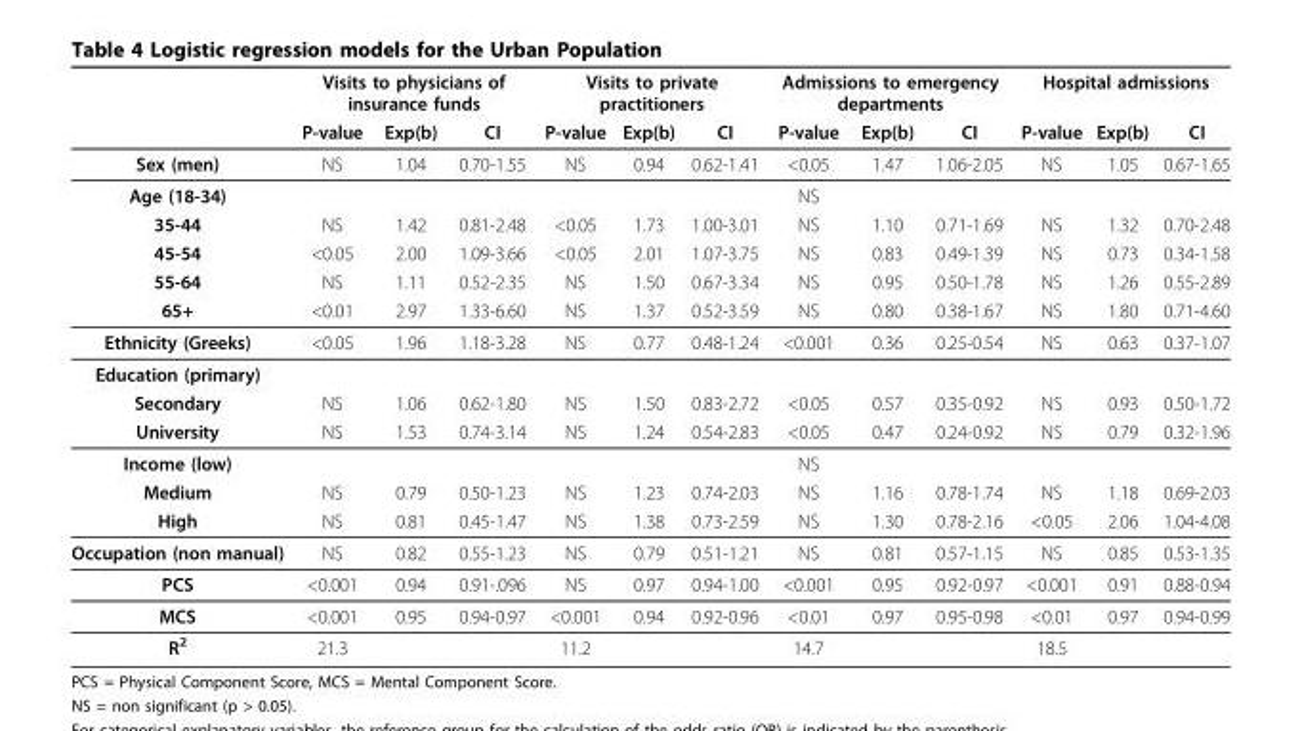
<table><thead><tr><td rowspan="2"></td><td colspan="3">Visits to physicians of insurance funds</td><td colspan="3">Visits to private practitioners</td><td colspan="3">Admissions to emergency departments</td><td colspan="3">Hospital admissions</td></tr><tr><td>P-value</td><td>Exp(b)</td><td>CI</td><td>P-value</td><td>Exp(b)</td><td>CI</td><td>P-value</td><td>Exp(b)</td><td>CI</td><td>P-value</td><td>Exp(b)</td><td>CI</td></tr></thead><tbody><tr><td>Sex (men)</td><td>NS</td><td>1.04</td><td>0.70-1.55</td><td>NS</td><td>0.94</td><td>0.62-1.41</td><td>&lt;0.05</td><td>1.47</td><td>1.06-2.05</td><td>NS</td><td>1.05</td><td>0.67-1.65</td></tr><tr><td>Age (18-34)</td><td></td><td></td><td></td><td></td><td></td><td></td><td>NS</td><td></td><td></td><td></td><td></td><td></td></tr><tr><td>35-44</td><td>NS</td><td>1.42</td><td>0.81-2.48</td><td>&lt;0.05</td><td>1.73</td><td>1.00-3.01</td><td>NS</td><td>1.10</td><td>0.71-1.69</td><td>NS</td><td>1.32</td><td>0.70-2.48</td></tr><tr><td>45-54</td><td>&lt;0.05</td><td>2.00</td><td>1.09-3.66</td><td>&lt;0.05</td><td>2.01</td><td>1.07-3.75</td><td>NS</td><td>0.83</td><td>0.49-1.39</td><td>NS</td><td>0.73</td><td>0.34-1.58</td></tr><tr><td>55-64</td><td>NS</td><td>1.11</td><td>0.52-2.35</td><td>NS</td><td>1.50</td><td>0.67-3.34</td><td>NS</td><td>0.95</td><td>0.50-1.78</td><td>NS</td><td>1.26</td><td>0.55-2.89</td></tr><tr><td>65+</td><td>&lt;0.01</td><td>2.97</td><td>1.33-6.60</td><td>NS</td><td>1.37</td><td>0.52-3.59</td><td>NS</td><td>0.80</td><td>0.38-1.67</td><td>NS</td><td>1.80</td><td>0.71-4.60</td></tr><tr><td>Ethnicity (Greeks)</td><td>&lt;0.05</td><td>1.96</td><td>1.18-3.28</td><td>NS</td><td>0.77</td><td>0.48-1.24</td><td>&lt;0.001</td><td>0.36</td><td>0.25-0.54</td><td>NS</td><td>0.63</td><td>0.37-1.07</td></tr><tr><td colspan="13">Education (primary)</td></tr><tr><td>Secondary</td><td>NS</td><td>1.06</td><td>0.62-1.80</td><td>NS</td><td>1.50</td><td>0.83-2.72</td><td>&lt;0.05</td><td>0.57</td><td>0.35-0.92</td><td>NS</td><td>0.93</td><td>0.50-1.72</td></tr><tr><td>University</td><td>NS</td><td>1.53</td><td>0.74-3.14</td><td>NS</td><td>1.24</td><td>0.54-2.83</td><td>&lt;0.05</td><td>0.47</td><td>0.24-0.92</td><td>NS</td><td>0.79</td><td>0.32-1.96</td></tr><tr><td>Income (low)</td><td></td><td></td><td></td><td></td><td></td><td></td><td>NS</td><td></td><td></td><td></td><td></td><td></td></tr><tr><td>Medium</td><td>NS</td><td>0.79</td><td>0.50-1.23</td><td>NS</td><td>1.23</td><td>0.74-2.03</td><td>NS</td><td>1.16</td><td>0.78-1.74</td><td>NS</td><td>1.18</td><td>0.69-2.03</td></tr><tr><td>High</td><td>NS</td><td>0.81</td><td>0.45-1.47</td><td>NS</td><td>1.38</td><td>0.73-2.59</td><td>NS</td><td>1.30</td><td>0.78-2.16</td><td>&lt;0.05</td><td>2.06</td><td>1.04-4.08</td></tr><tr><td>Occupation (non manual)</td><td>NS</td><td>0.82</td><td>0.55-1.23</td><td>NS</td><td>0.79</td><td>0.51-1.21</td><td>NS</td><td>0.81</td><td>0.57-1.15</td><td>NS</td><td>0.85</td><td>0.53-1.35</td></tr><tr><td>PCS</td><td>&lt;0.001</td><td>0.94</td><td>0.91-.096</td><td>NS</td><td>0.97</td><td>0.94-1.00</td><td>&lt;0.001</td><td>0.95</td><td>0.92-0.97</td><td>&lt;0.001</td><td>0.91</td><td>0.88-0.94</td></tr><tr><td>MCS</td><td>&lt;0.001</td><td>0.95</td><td>0.94-0.97</td><td>&lt;0.001</td><td>0.94</td><td>0.92-0.96</td><td>&lt;0.01</td><td>0.97</td><td>0.95-0.98</td><td>&lt;0.01</td><td>0.97</td><td>0.94-0.99</td></tr><tr><td>R<sup>2</sup></td><td>21.3</td><td></td><td></td><td>11.2</td><td></td><td></td><td>14.7</td><td></td><td></td><td>18.5</td><td></td><td></td></tr></tbody></table>